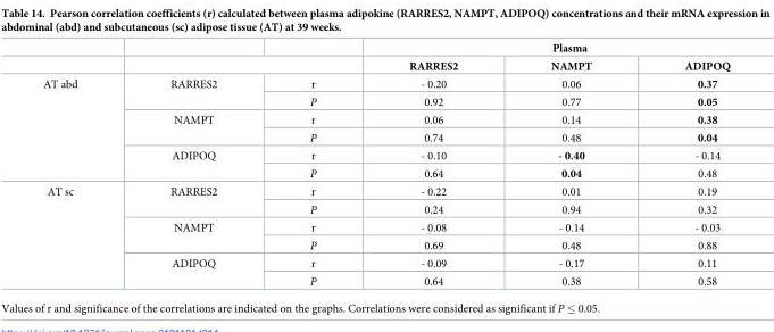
<table><thead><tr><td rowspan="2"></td><td rowspan="2"></td><td rowspan="2"></td><td colspan="3">Plasma</td></tr><tr><td>RARRES2</td><td>NAMPT</td><td>ADIPOQ</td></tr></thead><tbody><tr><td rowspan="6">AT abd</td><td rowspan="2">RARRES2</td><td>r</td><td>- 0.20</td><td>0.06</td><td>0.37</td></tr><tr><td>P</td><td>0.92</td><td>0.77</td><td>0.05</td></tr><tr><td rowspan="2">NAMPT</td><td>r</td><td>0.06</td><td>0.14</td><td>0.38</td></tr><tr><td>P</td><td>0.74</td><td>0.48</td><td>0.04</td></tr><tr><td rowspan="2">ADIPOQ</td><td>r</td><td>- 0.10</td><td>- 0.40</td><td>- 0.14</td></tr><tr><td>P</td><td>0.64</td><td>0.04</td><td>0.48</td></tr><tr><td rowspan="6">AT sc</td><td rowspan="2">RARRES2</td><td>r</td><td>- 0.22</td><td>0.01</td><td>0.19</td></tr><tr><td>P</td><td>0.24</td><td>0.94</td><td>0.32</td></tr><tr><td rowspan="2">NAMPT</td><td>r</td><td>- 0.08</td><td>- 0.14</td><td>- 0.03</td></tr><tr><td>P</td><td>0.69</td><td>0.48</td><td>0.88</td></tr><tr><td rowspan="2">ADIPOQ</td><td>r</td><td>- 0.09</td><td>- 0.17</td><td>0.11</td></tr><tr><td>P</td><td>0.64</td><td>0.38</td><td>0.58</td></tr></tbody></table>